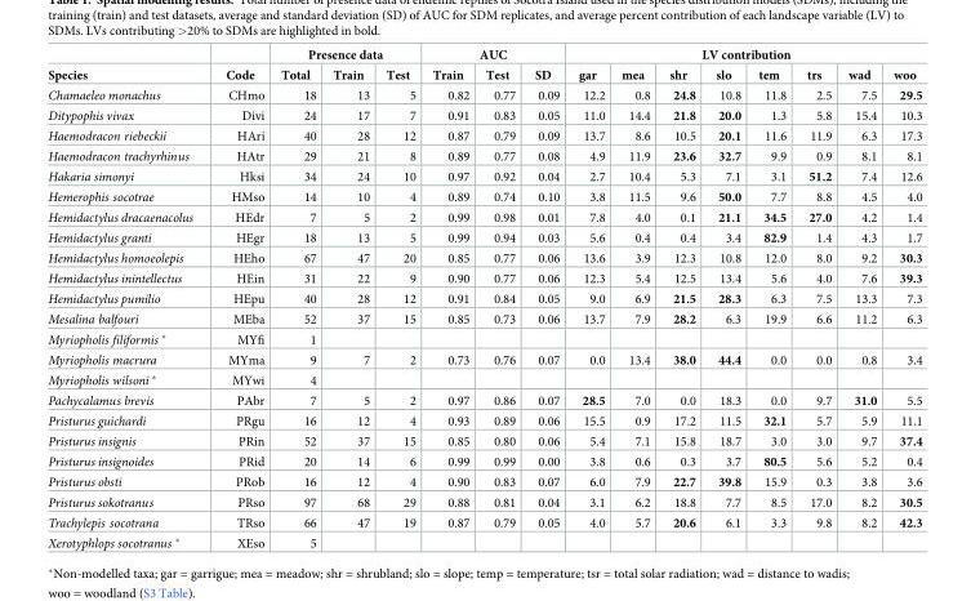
<table><thead><tr><td rowspan="2">Species</td><td rowspan="2">Code</td><td colspan="3">Presence data</td><td colspan="3">AUC</td><td colspan="8">LV contribution</td></tr><tr><td>Total</td><td>Train</td><td>Test</td><td>Train</td><td>Test</td><td>SD</td><td>gar</td><td>mea</td><td>shr</td><td>slo</td><td>tem</td><td>trs</td><td>wad</td><td>woo</td></tr></thead><tbody><tr><td>Chamaeleo monachus</td><td>CHmo</td><td>18</td><td>13</td><td>5</td><td>0.82</td><td>0.77</td><td>0.09</td><td>12.2</td><td>0.8</td><td>24.8</td><td>10.8</td><td>11.8</td><td>2.5</td><td>7.5</td><td>29.5</td></tr><tr><td>Ditypophis vivax</td><td>Divi</td><td>24</td><td>17</td><td>7</td><td>0.91</td><td>0.83</td><td>0.05</td><td>11.0</td><td>14.4</td><td>21.8</td><td>20.0</td><td>1.3</td><td>5.8</td><td>15.4</td><td>10.3</td></tr><tr><td>Haemodracon riebeckii</td><td>HAri</td><td>40</td><td>28</td><td>12</td><td>0.87</td><td>0.79</td><td>0.09</td><td>13.7</td><td>8.6</td><td>10.5</td><td>20.1</td><td>11.6</td><td>11.9</td><td>6.3</td><td>17.3</td></tr><tr><td>Haemodracon trachyrhinus</td><td>HAtr</td><td>29</td><td>21</td><td>8</td><td>0.89</td><td>0.77</td><td>0.08</td><td>4.9</td><td>11.9</td><td>23.6</td><td>32.7</td><td>9.9</td><td>0.9</td><td>8.1</td><td>8.1</td></tr><tr><td>Hakaria simonyi</td><td>Hksi</td><td>34</td><td>24</td><td>10</td><td>0.97</td><td>0.92</td><td>0.04</td><td>2.7</td><td>10.4</td><td>5.3</td><td>7.1</td><td>3.1</td><td>51.2</td><td>7.4</td><td>12.6</td></tr><tr><td>Hemerophis socotrae</td><td>HMso</td><td>14</td><td>10</td><td>4</td><td>0.89</td><td>0.74</td><td>0.10</td><td>3.8</td><td>11.5</td><td>9.6</td><td>50.0</td><td>7.7</td><td>8.8</td><td>4.5</td><td>4.0</td></tr><tr><td>Hemidactylus dracaenacolus</td><td>HEdr</td><td>7</td><td>5</td><td>2</td><td>0.99</td><td>0.98</td><td>0.01</td><td>7.8</td><td>4.0</td><td>0.1</td><td>21.1</td><td>34.5</td><td>27.0</td><td>4.2</td><td>1.4</td></tr><tr><td>Hemidactylus granti</td><td>HEgr</td><td>18</td><td>13</td><td>5</td><td>0.99</td><td>0.94</td><td>0.03</td><td>5.6</td><td>0.4</td><td>0.4</td><td>3.4</td><td>82.9</td><td>1.4</td><td>4.3</td><td>1.7</td></tr><tr><td>Hemidactylus homoeolepis</td><td>HEho</td><td>67</td><td>47</td><td>20</td><td>0.85</td><td>0.77</td><td>0.06</td><td>13.6</td><td>3.9</td><td>12.3</td><td>10.8</td><td>12.0</td><td>8.0</td><td>9.2</td><td>30.3</td></tr><tr><td>Hemidactylus inintellectus</td><td>HEin</td><td>31</td><td>22</td><td>9</td><td>0.90</td><td>0.77</td><td>0.06</td><td>12.3</td><td>5.4</td><td>12.5</td><td>13.4</td><td>5.6</td><td>4.0</td><td>7.6</td><td>39.3</td></tr><tr><td>Hemidactylus pumilio</td><td>HEpu</td><td>40</td><td>28</td><td>12</td><td>0.91</td><td>0.84</td><td>0.05</td><td>9.0</td><td>6.9</td><td>21.5</td><td>28.3</td><td>6.3</td><td>7.5</td><td>13.3</td><td>7.3</td></tr><tr><td>Mesalina balfouri</td><td>MEba</td><td>52</td><td>37</td><td>15</td><td>0.85</td><td>0.73</td><td>0.06</td><td>13.7</td><td>7.9</td><td>28.2</td><td>6.3</td><td>19.9</td><td>6.6</td><td>11.2</td><td>6.3</td></tr><tr><td>Myriopholis filiformis *</td><td>MYfi</td><td>1</td><td></td><td></td><td></td><td></td><td></td><td></td><td></td><td></td><td></td><td></td><td></td><td></td><td></td></tr><tr><td>Myriopholis macrura</td><td>MYma</td><td>9</td><td>7</td><td>2</td><td>0.73</td><td>0.76</td><td>0.07</td><td>0.0</td><td>13.4</td><td>38.0</td><td>44.4</td><td>0.0</td><td>0.0</td><td>0.8</td><td>3.4</td></tr><tr><td>Myriopholis wilsoni *</td><td>MYwi</td><td>4</td><td></td><td></td><td></td><td></td><td></td><td></td><td></td><td></td><td></td><td></td><td></td><td></td><td></td></tr><tr><td>Pachycalamus brevis</td><td>PAbr</td><td>7</td><td>5</td><td>2</td><td>0.97</td><td>0.86</td><td>0.07</td><td>28.5</td><td>7.0</td><td>0.0</td><td>18.3</td><td>0.0</td><td>9.7</td><td>31.0</td><td>5.5</td></tr><tr><td>Pristurus guichardi</td><td>PRgu</td><td>16</td><td>12</td><td>4</td><td>0.93</td><td>0.89</td><td>0.06</td><td>15.5</td><td>0.9</td><td>17.2</td><td>11.5</td><td>32.1</td><td>5.7</td><td>5.9</td><td>11.1</td></tr><tr><td>Pristurus insignis</td><td>PRin</td><td>52</td><td>37</td><td>15</td><td>0.85</td><td>0.80</td><td>0.06</td><td>5.4</td><td>7.1</td><td>15.8</td><td>18.7</td><td>3.0</td><td>3.0</td><td>9.7</td><td>37.4</td></tr><tr><td>Pristurus insignoides</td><td>PRid</td><td>20</td><td>14</td><td>6</td><td>0.99</td><td>0.99</td><td>0.00</td><td>3.8</td><td>0.6</td><td>0.3</td><td>3.7</td><td>80.5</td><td>5.6</td><td>5.2</td><td>0.4</td></tr><tr><td>Pristurus obsti</td><td>PRob</td><td>16</td><td>12</td><td>4</td><td>0.90</td><td>0.83</td><td>0.07</td><td>6.0</td><td>7.9</td><td>22.7</td><td>39.8</td><td>15.9</td><td>0.3</td><td>3.8</td><td>3.6</td></tr><tr><td>Pristurus sokotranus</td><td>PRso</td><td>97</td><td>68</td><td>29</td><td>0.88</td><td>0.81</td><td>0.04</td><td>3.1</td><td>6.2</td><td>18.8</td><td>7.7</td><td>8.5</td><td>17.0</td><td>8.2</td><td>30.5</td></tr><tr><td>Trachylepis socotrana</td><td>TRso</td><td>66</td><td>47</td><td>19</td><td>0.87</td><td>0.79</td><td>0.05</td><td>4.0</td><td>5.7</td><td>20.6</td><td>6.1</td><td>3.3</td><td>9.8</td><td>8.2</td><td>42.3</td></tr><tr><td>Xerotyphlops socotranus *</td><td>XEso</td><td>5</td><td></td><td></td><td></td><td></td><td></td><td></td><td></td><td></td><td></td><td></td><td></td><td></td><td></td></tr></tbody></table>